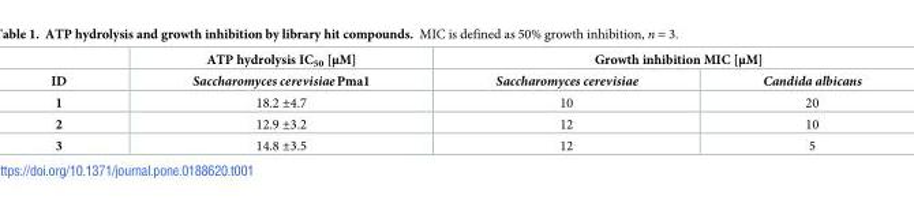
<table><thead><tr><td rowspan="2">ID</td><td rowspan="2">ATP hydrolysis IC<sub>50</sub> [μM] Saccharomyces cerevisiaePma1</td><td colspan="2">Growth inhibition MIC [μM]</td></tr><tr><td>Saccharomyces cerevisiae</td><td>Candida albicans</td></tr></thead><tbody><tr><td>1</td><td>18.2 ±4.7</td><td>10</td><td>20</td></tr><tr><td>2</td><td>12.9 ±3.2</td><td>12</td><td>10</td></tr><tr><td>3</td><td>14.8 ±3.5</td><td>12</td><td>5</td></tr></tbody></table>